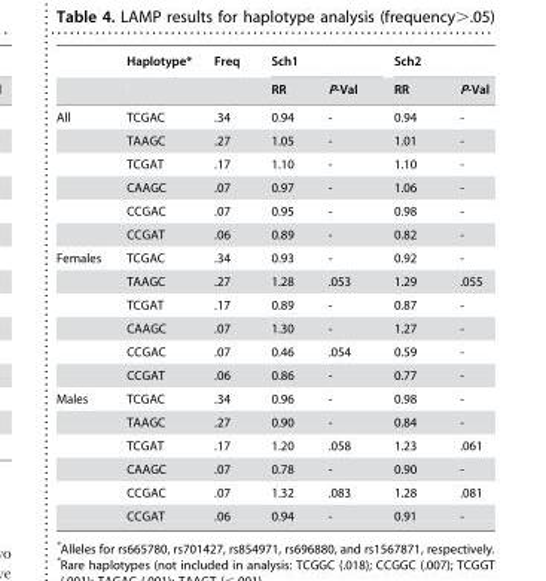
<table><thead><tr><td rowspan="2"></td><td rowspan="2">Haplotype*</td><td rowspan="2">Freq</td><td colspan="2">Sch1</td><td colspan="2">Sch2</td></tr><tr><td>RR</td><td>P-Val</td><td>RR</td><td>P-Val</td></tr></thead><tbody><tr><td rowspan="6">All</td><td>TCGAC</td><td>.34</td><td>0.94</td><td>-</td><td>0.94</td><td>-</td></tr><tr><td>TAAGC</td><td>.27</td><td>1.05</td><td>-</td><td>1.01</td><td>-</td></tr><tr><td>TCGAT</td><td>.17</td><td>1.10</td><td>-</td><td>1.10</td><td>-</td></tr><tr><td>CAAGC</td><td>.07</td><td>0.97</td><td>-</td><td>1.06</td><td>-</td></tr><tr><td>CCGAC</td><td>.07</td><td>0.95</td><td>-</td><td>0.98</td><td>-</td></tr><tr><td>CCGAT</td><td>.06</td><td>0.89</td><td>-</td><td>0.82</td><td>-</td></tr><tr><td rowspan="6">Females</td><td>TCGAC</td><td>.34</td><td>0.93</td><td>-</td><td>0.92</td><td>-</td></tr><tr><td>TAAGC</td><td>.27</td><td>1.28</td><td>.053</td><td>1.29</td><td>.055</td></tr><tr><td>TCGAT</td><td>.17</td><td>0.89</td><td>-</td><td>0.87</td><td>-</td></tr><tr><td>CAAGC</td><td>.07</td><td>1.30</td><td>-</td><td>1.27</td><td>-</td></tr><tr><td>CCGAC</td><td>.07</td><td>0.46</td><td>.054</td><td>0.59</td><td>-</td></tr><tr><td>CCGAT</td><td>.06</td><td>0.86</td><td>-</td><td>0.77</td><td>-</td></tr><tr><td rowspan="6">Males</td><td>TCGAC</td><td>.34</td><td>0.96</td><td>-</td><td>0.98</td><td>-</td></tr><tr><td>TAAGC</td><td>.27</td><td>0.90</td><td>-</td><td>0.84</td><td>-</td></tr><tr><td>TCGAT</td><td>.17</td><td>1.20</td><td>.058</td><td>1.23</td><td>.061</td></tr><tr><td>CAAGC</td><td>.07</td><td>0.78</td><td>-</td><td>0.90</td><td>-</td></tr><tr><td>CCGAC</td><td>.07</td><td>1.32</td><td>.083</td><td>1.28</td><td>.081</td></tr><tr><td>CCGAT</td><td>.06</td><td>0.94</td><td>-</td><td>0.91</td><td>-</td></tr></tbody></table>